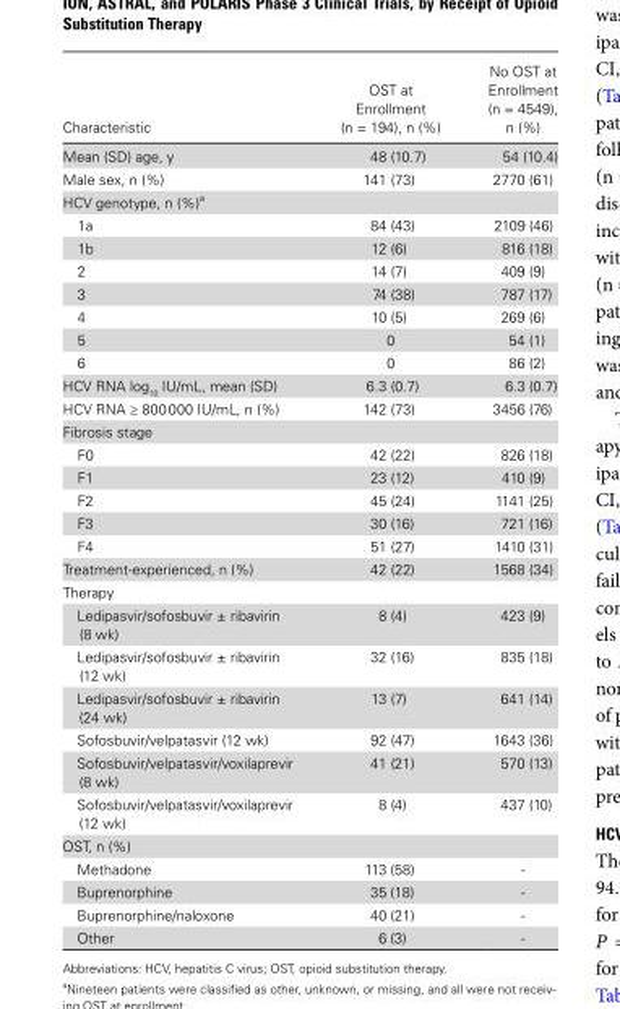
<table><thead><tr><td>Characteristic</td><td>OST at Enrollment (n = 194), n (%)</td><td>No OST at Enrollment (n = 4549), n (%)</td></tr></thead><tbody><tr><td>Mean (SD) age, y</td><td>48 (10.7)</td><td>54 (10.4)</td></tr><tr><td>Male sex, n (%)</td><td>141 (73)</td><td>2770 (61)</td></tr><tr><td colspan="3">HCV genotype, n (%)<sup>a</sup></td></tr><tr><td>1a</td><td>84 (43)</td><td>2109 (46)</td></tr><tr><td>1b</td><td>12 (6)</td><td>816 (18)</td></tr><tr><td>2</td><td>14 (7)</td><td>409 (9)</td></tr><tr><td>3</td><td>74 (38)</td><td>787 (17)</td></tr><tr><td>4</td><td>10 (5)</td><td>269 (6)</td></tr><tr><td>5</td><td>0</td><td>54 (1)</td></tr><tr><td>6</td><td>0</td><td>86 (2)</td></tr><tr><td>HCV RNA log<sub>10</sub> IU/mL, mean (SD)</td><td>6.3 (0.7)</td><td>6.3 (0.7)</td></tr><tr><td>HCV RNA ≥ 800 000 IU/mL, n (%)</td><td>142 (73)</td><td>3456 (76)</td></tr><tr><td colspan="3">Fibrosis stage</td></tr><tr><td>F0</td><td>42 (22)</td><td>826 (18)</td></tr><tr><td>F1</td><td>23 (12)</td><td>410 (9)</td></tr><tr><td>F2</td><td>45 (24)</td><td>1141 (25)</td></tr><tr><td>F3</td><td>30 (16)</td><td>721 (16)</td></tr><tr><td>F4</td><td>51 (27)</td><td>1410 (31)</td></tr><tr><td>Treatment-experienced, n (%)</td><td>42 (22)</td><td>1568 (34)</td></tr><tr><td colspan="3">Therapy</td></tr><tr><td>Ledipasvir/sofosbuvir ± ribavirin (8 wk)</td><td>8 (4)</td><td>423 (9)</td></tr><tr><td>Ledipasvir/sofosbuvir ± ribavirin (12 wk)</td><td>32 (16)</td><td>835 (18)</td></tr><tr><td>Ledipasvir/sofosbuvir ± ribavirin (24 wk)</td><td>13 (7)</td><td>641 (14)</td></tr><tr><td>Sofosbuvir/velpatasvir (12 wk)</td><td>92 (47)</td><td>1643 (36)</td></tr><tr><td>Sofosbuvir/velpatasvir/voxilaprevir (8 wk)</td><td>41 (21)</td><td>570 (13)</td></tr><tr><td>Sofosbuvir/velpatasvir/voxilaprevir (12 wk)</td><td>8 (4)</td><td>437 (10)</td></tr><tr><td colspan="3">OST, n (%)</td></tr><tr><td>Methadone</td><td>113 (58)</td><td>-</td></tr><tr><td>Buprenorphine</td><td>35 (18)</td><td>-</td></tr><tr><td>Buprenorphine/naloxone</td><td>40 (21)</td><td>-</td></tr><tr><td>Other</td><td>6 (3)</td><td>-</td></tr></tbody></table>